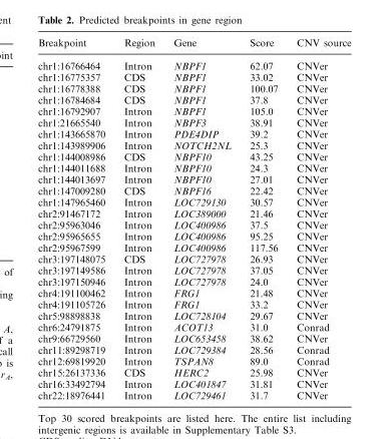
<table><thead><tr><td>Breakpoint</td><td>Region</td><td>Gene</td><td>Score</td><td>CNV source</td></tr></thead><tbody><tr><td>chr1:16766464</td><td>Intron</td><td>NBPF1</td><td>62.07</td><td>CNVer</td></tr><tr><td>chr1:16775357</td><td>CDS</td><td>NBPF1</td><td>33.02</td><td>CNVer</td></tr><tr><td>chr1:16778388</td><td>CDS</td><td>NBPF1</td><td>100.07</td><td>CNVer</td></tr><tr><td>chr1:16784684</td><td>CDS</td><td>NBPF1</td><td>37.8</td><td>CNVer</td></tr><tr><td>chr1:16792907</td><td>Intron</td><td>NBPF1</td><td>105.0</td><td>CNVer</td></tr><tr><td>chr1:21665540</td><td>Intron</td><td>NBPF3</td><td>38.91</td><td>CNVer</td></tr><tr><td>chr1:143665870</td><td>Intron</td><td>PDE4DIP</td><td>39.2</td><td>CNVer</td></tr><tr><td>chr1:143989906</td><td>Intron</td><td>NOTCH2NL</td><td>25.3</td><td>CNVer</td></tr><tr><td>chr1:144008986</td><td>CDS</td><td>NBPF10</td><td>43.25</td><td>CNVer</td></tr><tr><td>chr1:144011688</td><td>Intron</td><td>NBPF10</td><td>24.3</td><td>CNVer</td></tr><tr><td>chr1:144013697</td><td>Intron</td><td>NBPF10</td><td>27.01</td><td>CNVer</td></tr><tr><td>chr1:147009280</td><td>CDS</td><td>NBPF16</td><td>22.42</td><td>CNVer</td></tr><tr><td>chr1:147965460</td><td>Intron</td><td>LOC729130</td><td>30.57</td><td>CNVer</td></tr><tr><td>chr2:91467172</td><td>Intron</td><td>LOC389000</td><td>21.46</td><td>CNVer</td></tr><tr><td>chr2:95963046</td><td>Intron</td><td>LOC400986</td><td>37.5</td><td>CNVer</td></tr><tr><td>chr2:95965655</td><td>Intron</td><td>LOC400986</td><td>95.25</td><td>CNVer</td></tr><tr><td>chr2:95967599</td><td>Intron</td><td>LOC400986</td><td>117.56</td><td>CNVer</td></tr><tr><td>chr3:197148075</td><td>CDS</td><td>LOC727978</td><td>26.93</td><td>CNVer</td></tr><tr><td>chr3:197149586</td><td>Intron</td><td>LOC727978</td><td>37.05</td><td>CNVer</td></tr><tr><td>chr3:197150946</td><td>Intron</td><td>LOC727978</td><td>24.0</td><td>CNVer</td></tr><tr><td>chr4:191100462</td><td>Intron</td><td>FRG1</td><td>21.48</td><td>CNVer</td></tr><tr><td>chr4:191105726</td><td>Intron</td><td>FRG1</td><td>33.2</td><td>CNVer</td></tr><tr><td>chr5:98898838</td><td>Intron</td><td>LOC728104</td><td>29.67</td><td>CNVer</td></tr><tr><td>chr6:24791875</td><td>Intron</td><td>ACOT13</td><td>31.0</td><td>Conrad</td></tr><tr><td>chr9:66729560</td><td>Intron</td><td>LOC653458</td><td>38.62</td><td>CNVer</td></tr><tr><td>chr11:89298719</td><td>Intron</td><td>LOC729384</td><td>28.56</td><td>Conrad</td></tr><tr><td>chr12:69819920</td><td>Intron</td><td>TSPAN8</td><td>89.0</td><td>Conrad</td></tr><tr><td>chr15:26137336</td><td>CDS</td><td>HERC2</td><td>25.98</td><td>CNVer</td></tr><tr><td>chr16:33492794</td><td>Intron</td><td>LOC401847</td><td>31.81</td><td>CNVer</td></tr><tr><td>chr22:18976441</td><td>Intron</td><td>LOC729461</td><td>31.7</td><td>CNVer</td></tr></tbody></table>